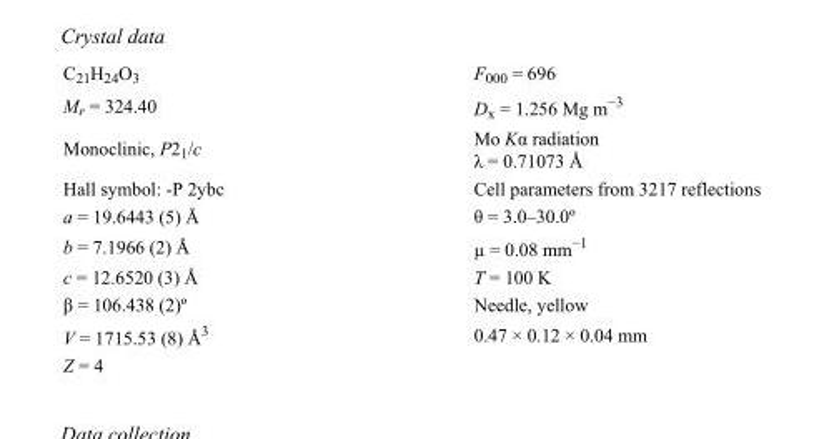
<table><tbody><tr><td>C<sub>21</sub>H<sub>24</sub>O<sub>3</sub></td><td>F000 = 696</td></tr><tr><td>M<sub>r</sub> = 324.40</td><td>D<sub>x</sub> = 1.256 Mg m<sup>−3</sup></td></tr><tr><td>Monoclinic, P2<sub>1</sub>/c</td><td>Mo Kα radiation λ = 0.71073 Å</td></tr><tr><td>Hall symbol: -P 2ybc</td><td>Cell parameters from 3217 reflections</td></tr><tr><td>a = 19.6443 (5) Å</td><td>θ = 3.0–30.0º</td></tr><tr><td>b = 7.1966 (2) Å</td><td>µ = 0.08 mm<sup>−1</sup></td></tr><tr><td>c = 12.6520 (3) Å</td><td>T = 100 K</td></tr><tr><td>β = 106.438 (2)º</td><td>Needle, yellow</td></tr><tr><td>V = 1715.53 (8) Å<sup>3</sup></td><td>0.47 × 0.12 × 0.04 mm</td></tr><tr><td>Z = 4</td><td></td></tr></tbody></table>